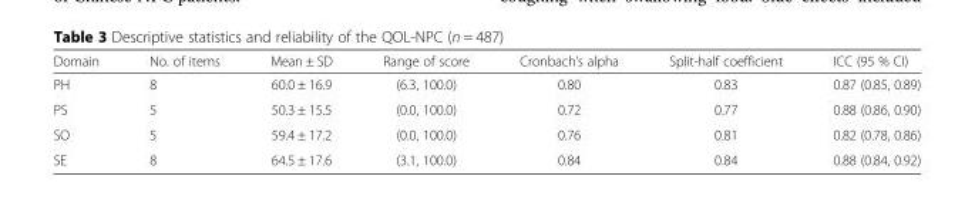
<table><thead><tr><td>Domain</td><td>No. of items</td><td>Mean ± SD</td><td>Range of score</td><td>Cronbach’s alpha</td><td>Split-half coefficient</td><td>ICC (95 % CI)</td></tr></thead><tbody><tr><td>PH</td><td>8</td><td>60.0 ± 16.9</td><td>(6.3, 100.0)</td><td>0.80</td><td>0.83</td><td>0.87 (0.85, 0.89)</td></tr><tr><td>PS</td><td>5</td><td>50.3 ± 15.5</td><td>(0.0, 100.0)</td><td>0.72</td><td>0.77</td><td>0.88 (0.86, 0.90)</td></tr><tr><td>SO</td><td>5</td><td>59.4 ± 17.2</td><td>(0.0, 100.0)</td><td>0.76</td><td>0.81</td><td>0.82 (0.78, 0.86)</td></tr><tr><td>SE</td><td>8</td><td>64.5 ± 17.6</td><td>(3.1, 100.0)</td><td>0.84</td><td>0.84</td><td>0.88 (0.84, 0.92)</td></tr></tbody></table>